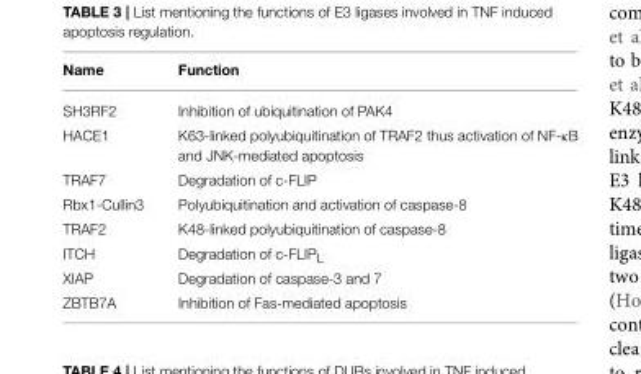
<table><thead><tr><td>Name</td><td>Function</td></tr></thead><tbody><tr><td>SH3RF2</td><td>Inhibition of ubiquitination of PAK4</td></tr><tr><td>HACE1</td><td>K63-linked polyubiquitination of TRAF2 thus activation of NF-κB and JNK-mediated apoptosis</td></tr><tr><td>TRAF7</td><td>Degradation of c-FLIP</td></tr><tr><td>Rbx1-Cullin3</td><td>Polyubiquitination and activation of caspase-8</td></tr><tr><td>TRAF2</td><td>K48-linked polyubiquitination of caspase-8</td></tr><tr><td>ITCH</td><td>Degradation of c-FLIP<sub>L</sub></td></tr><tr><td>XIAP</td><td>Degradation of caspase-3 and 7</td></tr><tr><td>ZBTB7A</td><td>Inhibition of Fas-mediated apoptosis</td></tr></tbody></table>